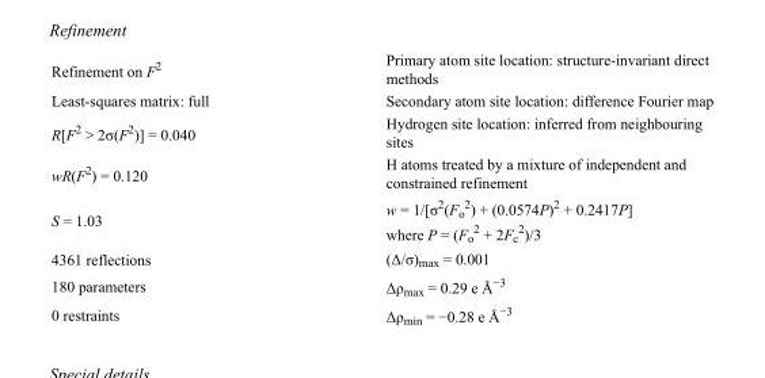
<table><tbody><tr><td>Refinement on F<sup>2</sup></td><td>Primary atom site location: structure-invariant direct methods</td></tr><tr><td>Least-squares matrix: full</td><td>Secondary atom site location: difference Fourier map</td></tr><tr><td>R[F<sup>2</sup> &gt; 2σ(F<sup>2</sup>)] = 0.040</td><td>Hydrogen site location: inferred from neighbouring sites</td></tr><tr><td>wR(F<sup>2</sup>) = 0.120</td><td>H atoms treated by a mixture of independent and constrained refinement</td></tr><tr><td>S = 1.03</td><td>w = 1/[σ<sup>2</sup>(F<sub>o</sub> <sup>2</sup>) + (0.0574P)<sup>2</sup> + 0.2417P] where P = (F<sub>o</sub> <sup>2</sup> + 2F<sub>c</sub> <sup>2</sup>)/3</td></tr><tr><td>4361 reflections</td><td>(Δ/σ)<sub>max</sub> = 0.001</td></tr><tr><td>180 parameters</td><td>Δρ<sub>max</sub> = 0.29 e Å<sup>−3</sup></td></tr><tr><td>0 restraints</td><td>Δρ<sub>min</sub> = −0.28 e Å<sup>−3</sup></td></tr></tbody></table>